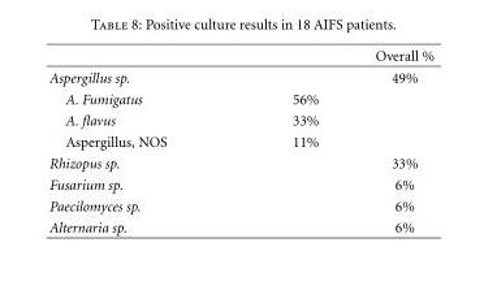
<table><thead><tr><td></td><td></td><td>Overall %</td></tr></thead><tbody><tr><td>Aspergillus sp.</td><td></td><td>49%</td></tr><tr><td>A. Fumigatus</td><td>56%</td><td></td></tr><tr><td>A. flavus</td><td>33%</td><td></td></tr><tr><td>Aspergillus, NOS</td><td>11%</td><td></td></tr><tr><td>Rhizopus sp.</td><td></td><td>33%</td></tr><tr><td>Fusarium sp.</td><td></td><td>6%</td></tr><tr><td>Paecilomyces sp.</td><td></td><td>6%</td></tr><tr><td>Alternaria sp.</td><td></td><td>6%</td></tr></tbody></table>